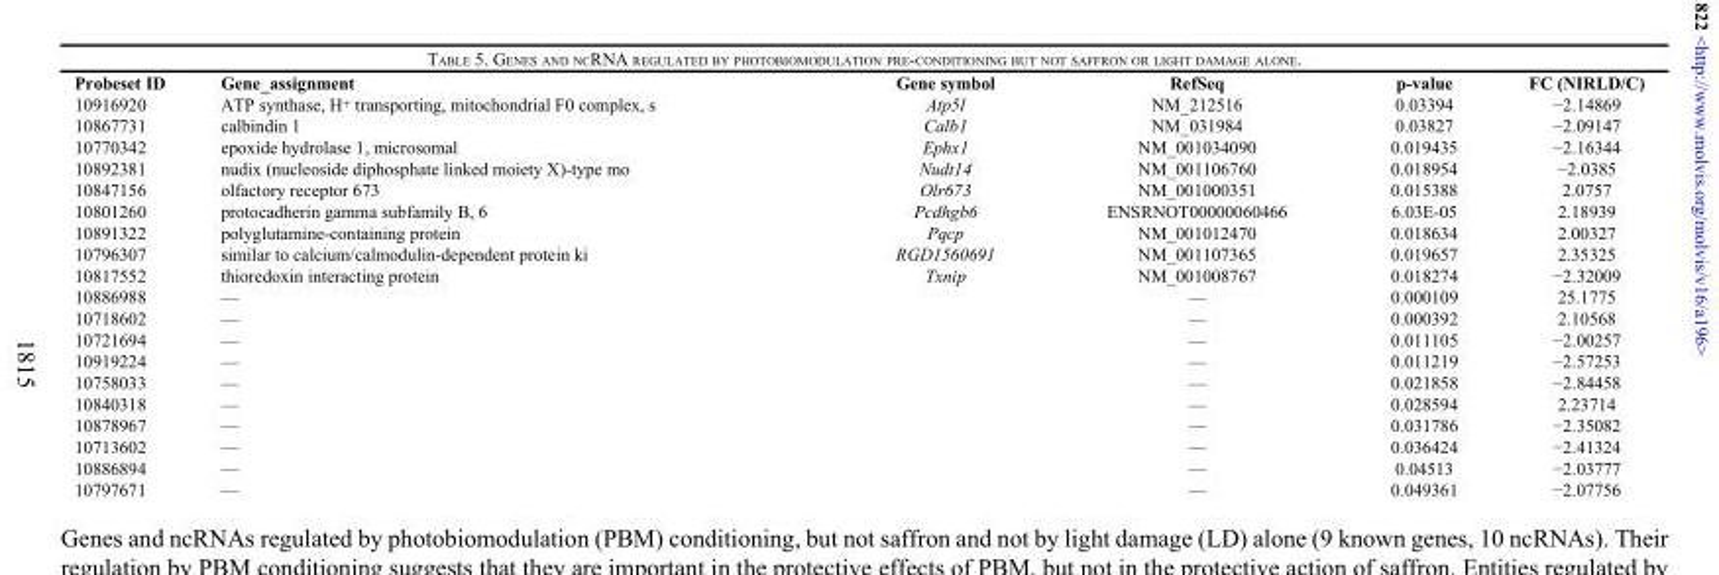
<table><thead><tr><td>Probeset ID</td><td>Gene_assignment</td><td>Gene symbol</td><td>RefSeq</td><td>p-value</td><td>FC (NIRLD/C)</td></tr></thead><tbody><tr><td>10916920</td><td>ATP synthase, H<sup>+</sup> transporting, mitochondrial F0 complex, s</td><td>Atp5l</td><td>NM_212516</td><td>0.03394</td><td>−2.14869</td></tr><tr><td>10867731</td><td>calbindin 1</td><td>Calb1</td><td>NM_031984</td><td>0.03827</td><td>−2.09147</td></tr><tr><td>10770342</td><td>epoxide hydrolase 1, microsomal</td><td>Ephx1</td><td>NM_001034090</td><td>0.019435</td><td>−2.16344</td></tr><tr><td>10892381</td><td>nudix (nucleoside diphosphate linked moiety X)-type mo</td><td>Nudt14</td><td>NM_001106760</td><td>0.018954</td><td>−2.0385</td></tr><tr><td>10847156</td><td>olfactory receptor 673</td><td>Olr673</td><td>NM_001000351</td><td>0.015388</td><td>2.0757</td></tr><tr><td>10801260</td><td>protocadherin gamma subfamily B, 6</td><td>Pcdhgb6</td><td>ENSRNOT00000060466</td><td>6.03E-05</td><td>2.18939</td></tr><tr><td>10891322</td><td>polyglutamine-containing protein</td><td>Pqcp</td><td>NM_001012470</td><td>0.018634</td><td>2.00327</td></tr><tr><td>10796307</td><td>similar to calcium/calmodulin-dependent protein ki</td><td>RGD1560691</td><td>NM_001107365</td><td>0.019657</td><td>2.35325</td></tr><tr><td>10817552</td><td>thioredoxin interacting protein</td><td>Txnip</td><td>NM_001008767</td><td>0.018274</td><td>−2.32009</td></tr><tr><td>10886988</td><td>—</td><td></td><td>—</td><td>0.000109</td><td>25.1775</td></tr><tr><td>10718602</td><td>—</td><td></td><td>—</td><td>0.000392</td><td>2.10568</td></tr><tr><td>10721694</td><td>—</td><td></td><td>—</td><td>0.011105</td><td>−2.00257</td></tr><tr><td>10919224</td><td>—</td><td></td><td>—</td><td>0.011219</td><td>−2.57253</td></tr><tr><td>10758033</td><td>—</td><td></td><td>—</td><td>0.021858</td><td>−2.84458</td></tr><tr><td>10840318</td><td>—</td><td></td><td>—</td><td>0.028594</td><td>2.23714</td></tr><tr><td>10878967</td><td>—</td><td></td><td>—</td><td>0.031786</td><td>−2.35082</td></tr><tr><td>10713602</td><td>—</td><td></td><td>—</td><td>0.036424</td><td>−2.41324</td></tr><tr><td>10886894</td><td>—</td><td></td><td>—</td><td>0.04513</td><td>−2.03777</td></tr><tr><td>10797671</td><td>—</td><td></td><td>—</td><td>0.049361</td><td>−2.07756</td></tr></tbody></table>